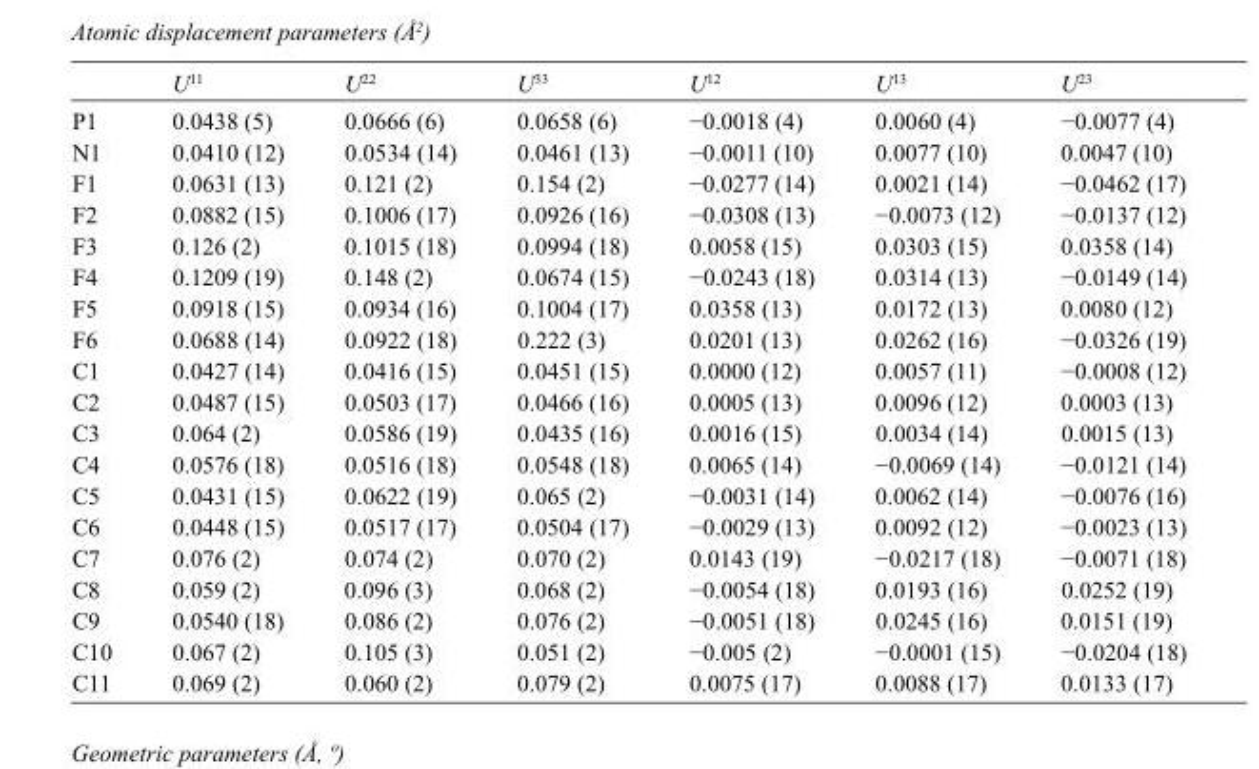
<table><thead><tr><td></td><td>U<sup>11</sup></td><td>U<sup>22</sup></td><td>U<sup>33</sup></td><td>U<sup>12</sup></td><td>U<sup>13</sup></td><td>U<sup>23</sup></td></tr></thead><tbody><tr><td>P1</td><td>0.0438 (5)</td><td>0.0666 (6)</td><td>0.0658 (6)</td><td>−0.0018 (4)</td><td>0.0060 (4)</td><td>−0.0077 (4)</td></tr><tr><td>N1</td><td>0.0410 (12)</td><td>0.0534 (14)</td><td>0.0461 (13)</td><td>−0.0011 (10)</td><td>0.0077 (10)</td><td>0.0047 (10)</td></tr><tr><td>F1</td><td>0.0631 (13)</td><td>0.121 (2)</td><td>0.154 (2)</td><td>−0.0277 (14)</td><td>0.0021 (14)</td><td>−0.0462 (17)</td></tr><tr><td>F2</td><td>0.0882 (15)</td><td>0.1006 (17)</td><td>0.0926 (16)</td><td>−0.0308 (13)</td><td>−0.0073 (12)</td><td>−0.0137 (12)</td></tr><tr><td>F3</td><td>0.126 (2)</td><td>0.1015 (18)</td><td>0.0994 (18)</td><td>0.0058 (15)</td><td>0.0303 (15)</td><td>0.0358 (14)</td></tr><tr><td>F4</td><td>0.1209 (19)</td><td>0.148 (2)</td><td>0.0674 (15)</td><td>−0.0243 (18)</td><td>0.0314 (13)</td><td>−0.0149 (14)</td></tr><tr><td>F5</td><td>0.0918 (15)</td><td>0.0934 (16)</td><td>0.1004 (17)</td><td>0.0358 (13)</td><td>0.0172 (13)</td><td>0.0080 (12)</td></tr><tr><td>F6</td><td>0.0688 (14)</td><td>0.0922 (18)</td><td>0.222 (3)</td><td>0.0201 (13)</td><td>0.0262 (16)</td><td>−0.0326 (19)</td></tr><tr><td>C1</td><td>0.0427 (14)</td><td>0.0416 (15)</td><td>0.0451 (15)</td><td>0.0000 (12)</td><td>0.0057 (11)</td><td>−0.0008 (12)</td></tr><tr><td>C2</td><td>0.0487 (15)</td><td>0.0503 (17)</td><td>0.0466 (16)</td><td>0.0005 (13)</td><td>0.0096 (12)</td><td>0.0003 (13)</td></tr><tr><td>C3</td><td>0.064 (2)</td><td>0.0586 (19)</td><td>0.0435 (16)</td><td>0.0016 (15)</td><td>0.0034 (14)</td><td>0.0015 (13)</td></tr><tr><td>C4</td><td>0.0576 (18)</td><td>0.0516 (18)</td><td>0.0548 (18)</td><td>0.0065 (14)</td><td>−0.0069 (14)</td><td>−0.0121 (14)</td></tr><tr><td>C5</td><td>0.0431 (15)</td><td>0.0622 (19)</td><td>0.065 (2)</td><td>−0.0031 (14)</td><td>0.0062 (14)</td><td>−0.0076 (16)</td></tr><tr><td>C6</td><td>0.0448 (15)</td><td>0.0517 (17)</td><td>0.0504 (17)</td><td>−0.0029 (13)</td><td>0.0092 (12)</td><td>−0.0023 (13)</td></tr><tr><td>C7</td><td>0.076 (2)</td><td>0.074 (2)</td><td>0.070 (2)</td><td>0.0143 (19)</td><td>−0.0217 (18)</td><td>−0.0071 (18)</td></tr><tr><td>C8</td><td>0.059 (2)</td><td>0.096 (3)</td><td>0.068 (2)</td><td>−0.0054 (18)</td><td>0.0193 (16)</td><td>0.0252 (19)</td></tr><tr><td>C9</td><td>0.0540 (18)</td><td>0.086 (2)</td><td>0.076 (2)</td><td>−0.0051 (18)</td><td>0.0245 (16)</td><td>0.0151 (19)</td></tr><tr><td>C10</td><td>0.067 (2)</td><td>0.105 (3)</td><td>0.051 (2)</td><td>−0.005 (2)</td><td>−0.0001 (15)</td><td>−0.0204 (18)</td></tr><tr><td>C11</td><td>0.069 (2)</td><td>0.060 (2)</td><td>0.079 (2)</td><td>0.0075 (17)</td><td>0.0088 (17)</td><td>0.0133 (17)</td></tr></tbody></table>